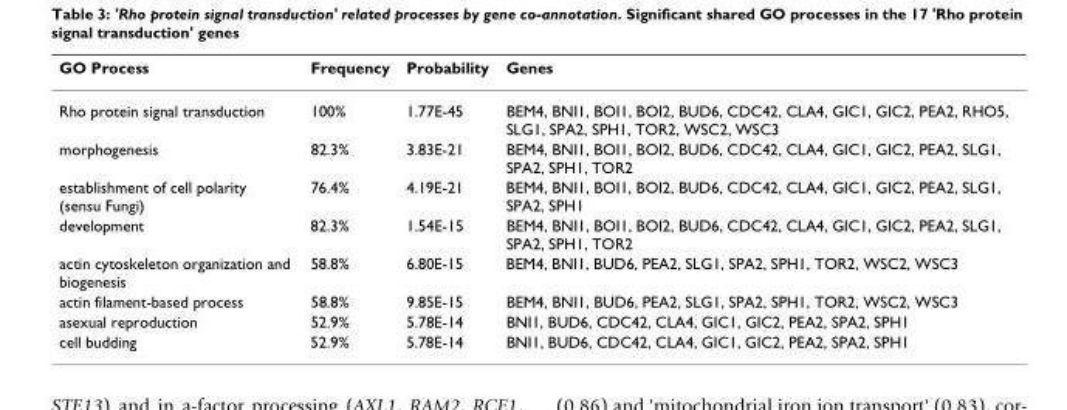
<table><thead><tr><td>GO Process</td><td>Frequency</td><td>Probability</td><td>Genes</td></tr></thead><tbody><tr><td>Rho protein signal transduction</td><td>100%</td><td>1.77E-45</td><td>BEM4, BNI1, BOI1, BOI2, BUD6, CDC42, CLA4, GIC1, GIC2, PEA2, RHO5, SLG1, SPA2, SPH1, TOR2, WSC2, WSC3</td></tr><tr><td>morphogenesis</td><td>82.3%</td><td>3.83E-21</td><td>BEM4, BNI1, BOI1, BOI2, BUD6, CDC42, CLA4, GIC1, GIC2, PEA2, SLG1, SPA2, SPH1, TOR2</td></tr><tr><td>establishment of cell polarity (sensu Fungi)</td><td>76.4%</td><td>4.19E-21</td><td>BEM4, BNI1, BOI1, BOI2, BUD6, CDC42, CLA4, GIC1, GIC2, PEA2, SLG1, SPA2, SPH1</td></tr><tr><td>development</td><td>82.3%</td><td>1.54E-15</td><td>BEM4, BNI1, BOI1, BOI2, BUD6, CDC42, CLA4, GIC1, GIC2, PEA2, SLG1, SPA2, SPH1, TOR2</td></tr><tr><td>actin cytoskeleton organization and biogenesis</td><td>58.8%</td><td>6.80E-15</td><td>BEM4, BNI1, BUD6, PEA2, SLG1, SPA2, SPH1, TOR2, WSC2, WSC3</td></tr><tr><td>actin filament-based process</td><td>58.8%</td><td>9.85E-15</td><td>BEM4, BNI1, BUD6, PEA2, SLG1, SPA2, SPH1, TOR2, WSC2, WSC3</td></tr><tr><td>asexual reproduction</td><td>52.9%</td><td>5.78E-14</td><td>BNI1, BUD6, CDC42, CLA4, GIC1, GIC2, PEA2, SPA2, SPH1</td></tr><tr><td>cell budding</td><td>52.9%</td><td>5.78E-14</td><td>BNI1, BUD6, CDC42, CLA4, GIC1, GIC2, PEA2, SPA2, SPH1</td></tr></tbody></table>